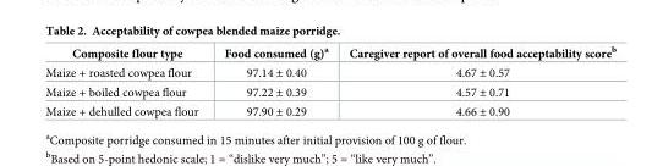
<table><thead><tr><td>Composite flour type</td><td>Food consumed (g)<sup>a</sup></td><td>Caregiver report of overall food acceptability score<sup>b</sup></td></tr></thead><tbody><tr><td>Maize + roasted cowpea flour</td><td>97.14 ± 0.40</td><td>4.67 ± 0.57</td></tr><tr><td>Maize + boiled cowpea flour</td><td>97.22 ± 0.39</td><td>4.57 ± 0.71</td></tr><tr><td>Maize + dehulled cowpea flour</td><td>97.90 ± 0.29</td><td>4.66 ± 0.90</td></tr></tbody></table>